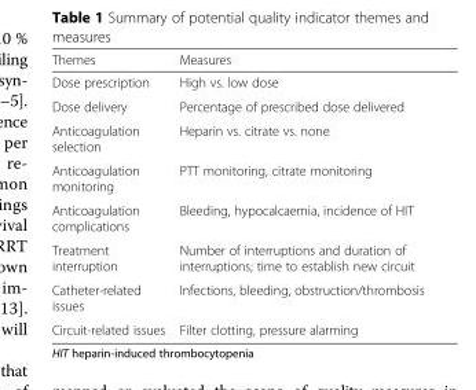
<table><thead><tr><td>Themes</td><td>Measures</td></tr></thead><tbody><tr><td>Dose prescription</td><td>High vs. low dose</td></tr><tr><td>Dose delivery</td><td>Percentage of prescribed dose delivered</td></tr><tr><td>Anticoagulation selection</td><td>Heparin vs. citrate vs. none</td></tr><tr><td>Anticoagulation monitoring</td><td>PTT monitoring, citrate monitoring</td></tr><tr><td>Anticoagulation complications</td><td>Bleeding, hypocalcaemia, incidence of HIT</td></tr><tr><td>Treatment interruption</td><td>Number of interruptions and duration of interruptions; time to establish new circuit</td></tr><tr><td>Catheter-related issues</td><td>Infections, bleeding, obstruction/thrombosis</td></tr><tr><td>Circuit-related issues</td><td>Filter clotting, pressure alarming</td></tr></tbody></table>